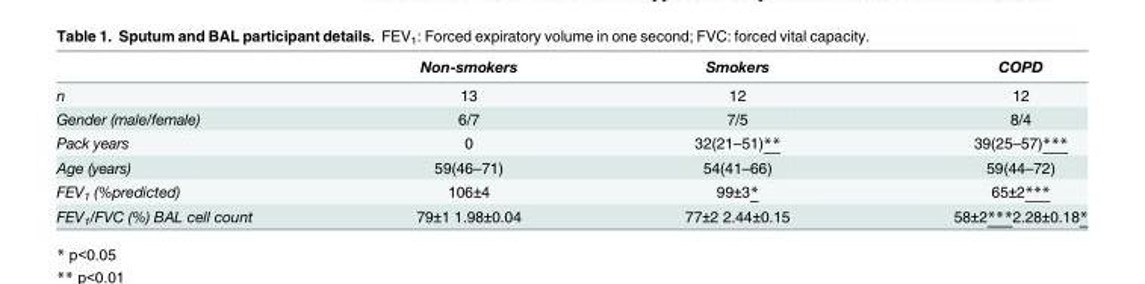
<table><thead><tr><td></td><td>Non-smokers</td><td>Smokers</td><td>COPD</td></tr></thead><tbody><tr><td>n</td><td>13</td><td>12</td><td>12</td></tr><tr><td>Gender (male/female)</td><td>6/7</td><td>7/5</td><td>8/4</td></tr><tr><td>Pack years</td><td>0</td><td>32(21–51)**</td><td>39(25–57)***</td></tr><tr><td>Age (years)</td><td>59(46–71)</td><td>54(41–66)</td><td>59(44–72)</td></tr><tr><td>FEV<sub>1</sub> (%predicted)</td><td>106±4</td><td>99±3*</td><td>65±2***</td></tr><tr><td>FEV<sub>1</sub>/FVC (%) BAL cell count</td><td>79±1 1.98±0.04</td><td>77±2 2.44±0.15</td><td>58±2***2.28±0.18*</td></tr></tbody></table>